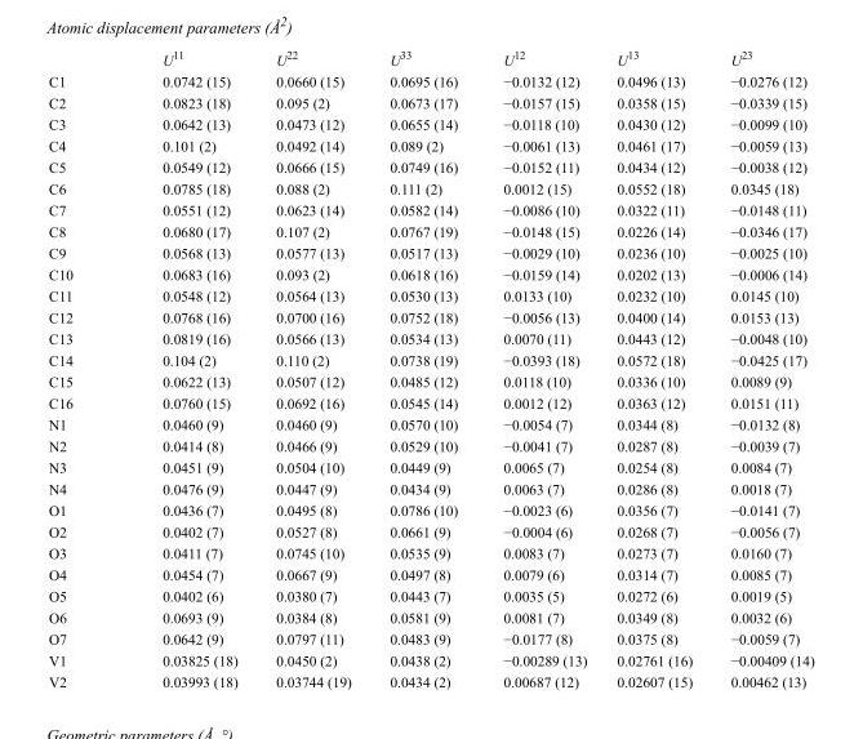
<table><thead><tr><td></td><td>U<sup>11</sup></td><td>U<sup>22</sup></td><td>U<sup>33</sup></td><td>U<sup>12</sup></td><td>U<sup>13</sup></td><td>U<sup>23</sup></td></tr></thead><tbody><tr><td>C1</td><td>0.0742 (15)</td><td>0.0660 (15)</td><td>0.0695 (16)</td><td>−0.0132 (12)</td><td>0.0496 (13)</td><td>−0.0276 (12)</td></tr><tr><td>C2</td><td>0.0823 (18)</td><td>0.095 (2)</td><td>0.0673 (17)</td><td>−0.0157 (15)</td><td>0.0358 (15)</td><td>−0.0339 (15)</td></tr><tr><td>C3</td><td>0.0642 (13)</td><td>0.0473 (12)</td><td>0.0655 (14)</td><td>−0.0118 (10)</td><td>0.0430 (12)</td><td>−0.0099 (10)</td></tr><tr><td>C4</td><td>0.101 (2)</td><td>0.0492 (14)</td><td>0.089 (2)</td><td>−0.0061 (13)</td><td>0.0461 (17)</td><td>−0.0059 (13)</td></tr><tr><td>C5</td><td>0.0549 (12)</td><td>0.0666 (15)</td><td>0.0749 (16)</td><td>−0.0152 (11)</td><td>0.0434 (12)</td><td>−0.0038 (12)</td></tr><tr><td>C6</td><td>0.0785 (18)</td><td>0.088 (2)</td><td>0.111 (2)</td><td>0.0012 (15)</td><td>0.0552 (18)</td><td>0.0345 (18)</td></tr><tr><td>C7</td><td>0.0551 (12)</td><td>0.0623 (14)</td><td>0.0582 (14)</td><td>−0.0086 (10)</td><td>0.0322 (11)</td><td>−0.0148 (11)</td></tr><tr><td>C8</td><td>0.0680 (17)</td><td>0.107 (2)</td><td>0.0767 (19)</td><td>−0.0148 (15)</td><td>0.0226 (14)</td><td>−0.0346 (17)</td></tr><tr><td>C9</td><td>0.0568 (13)</td><td>0.0577 (13)</td><td>0.0517 (13)</td><td>−0.0029 (10)</td><td>0.0236 (10)</td><td>−0.0025 (10)</td></tr><tr><td>C10</td><td>0.0683 (16)</td><td>0.093 (2)</td><td>0.0618 (16)</td><td>−0.0159 (14)</td><td>0.0202 (13)</td><td>−0.0006 (14)</td></tr><tr><td>C11</td><td>0.0548 (12)</td><td>0.0564 (13)</td><td>0.0530 (13)</td><td>0.0133 (10)</td><td>0.0232 (10)</td><td>0.0145 (10)</td></tr><tr><td>C12</td><td>0.0768 (16)</td><td>0.0700 (16)</td><td>0.0752 (18)</td><td>−0.0056 (13)</td><td>0.0400 (14)</td><td>0.0153 (13)</td></tr><tr><td>C13</td><td>0.0819 (16)</td><td>0.0566 (13)</td><td>0.0534 (13)</td><td>0.0070 (11)</td><td>0.0443 (12)</td><td>−0.0048 (10)</td></tr><tr><td>C14</td><td>0.104 (2)</td><td>0.110 (2)</td><td>0.0738 (19)</td><td>−0.0393 (18)</td><td>0.0572 (18)</td><td>−0.0425 (17)</td></tr><tr><td>C15</td><td>0.0622 (13)</td><td>0.0507 (12)</td><td>0.0485 (12)</td><td>0.0118 (10)</td><td>0.0336 (10)</td><td>0.0089 (9)</td></tr><tr><td>C16</td><td>0.0760 (15)</td><td>0.0692 (16)</td><td>0.0545 (14)</td><td>0.0012 (12)</td><td>0.0363 (12)</td><td>0.0151 (11)</td></tr><tr><td>N1</td><td>0.0460 (9)</td><td>0.0460 (9)</td><td>0.0570 (10)</td><td>−0.0054 (7)</td><td>0.0344 (8)</td><td>−0.0132 (8)</td></tr><tr><td>N2</td><td>0.0414 (8)</td><td>0.0466 (9)</td><td>0.0529 (10)</td><td>−0.0041 (7)</td><td>0.0287 (8)</td><td>−0.0039 (7)</td></tr><tr><td>N3</td><td>0.0451 (9)</td><td>0.0504 (10)</td><td>0.0449 (9)</td><td>0.0065 (7)</td><td>0.0254 (8)</td><td>0.0084 (7)</td></tr><tr><td>N4</td><td>0.0476 (9)</td><td>0.0447 (9)</td><td>0.0434 (9)</td><td>0.0063 (7)</td><td>0.0286 (8)</td><td>0.0018 (7)</td></tr><tr><td>O1</td><td>0.0436 (7)</td><td>0.0495 (8)</td><td>0.0786 (10)</td><td>−0.0023 (6)</td><td>0.0356 (7)</td><td>−0.0141 (7)</td></tr><tr><td>O2</td><td>0.0402 (7)</td><td>0.0527 (8)</td><td>0.0661 (9)</td><td>−0.0004 (6)</td><td>0.0268 (7)</td><td>−0.0056 (7)</td></tr><tr><td>O3</td><td>0.0411 (7)</td><td>0.0745 (10)</td><td>0.0535 (9)</td><td>0.0083 (7)</td><td>0.0273 (7)</td><td>0.0160 (7)</td></tr><tr><td>O4</td><td>0.0454 (7)</td><td>0.0667 (9)</td><td>0.0497 (8)</td><td>0.0079 (6)</td><td>0.0314 (7)</td><td>0.0085 (7)</td></tr><tr><td>O5</td><td>0.0402 (6)</td><td>0.0380 (7)</td><td>0.0443 (7)</td><td>0.0035 (5)</td><td>0.0272 (6)</td><td>0.0019 (5)</td></tr><tr><td>O6</td><td>0.0693 (9)</td><td>0.0384 (8)</td><td>0.0581 (9)</td><td>0.0081 (7)</td><td>0.0349 (8)</td><td>0.0032 (6)</td></tr><tr><td>O7</td><td>0.0642 (9)</td><td>0.0797 (11)</td><td>0.0483 (9)</td><td>−0.0177 (8)</td><td>0.0375 (8)</td><td>−0.0059 (7)</td></tr><tr><td>V1</td><td>0.03825 (18)</td><td>0.0450 (2)</td><td>0.0438 (2)</td><td>−0.00289 (13)</td><td>0.02761 (16)</td><td>−0.00409 (14)</td></tr><tr><td>V2</td><td>0.03993 (18)</td><td>0.03744 (19)</td><td>0.0434 (2)</td><td>0.00687 (12)</td><td>0.02607 (15)</td><td>0.00462 (13)</td></tr></tbody></table>